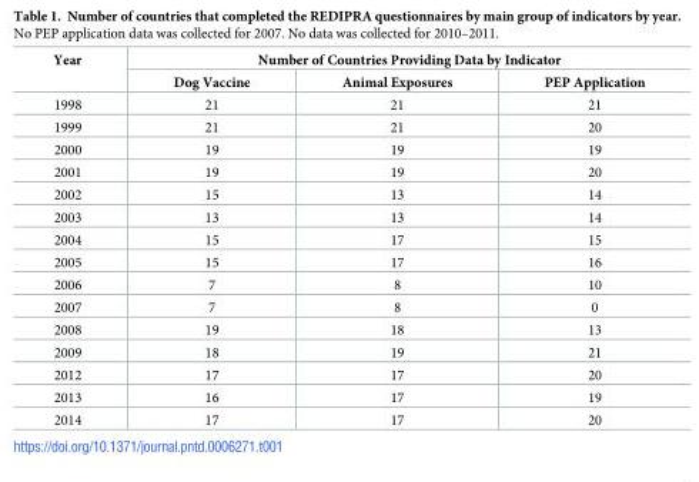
<table><thead><tr><td rowspan="2">Year</td><td colspan="3">Number of Countries Providing Data by Indicator</td></tr><tr><td>Dog Vaccine</td><td>Animal Exposures</td><td>PEP Application</td></tr></thead><tbody><tr><td>1998</td><td>21</td><td>21</td><td>21</td></tr><tr><td>1999</td><td>21</td><td>21</td><td>20</td></tr><tr><td>2000</td><td>19</td><td>19</td><td>19</td></tr><tr><td>2001</td><td>19</td><td>19</td><td>20</td></tr><tr><td>2002</td><td>15</td><td>13</td><td>14</td></tr><tr><td>2003</td><td>13</td><td>13</td><td>14</td></tr><tr><td>2004</td><td>15</td><td>17</td><td>15</td></tr><tr><td>2005</td><td>15</td><td>17</td><td>16</td></tr><tr><td>2006</td><td>7</td><td>8</td><td>10</td></tr><tr><td>2007</td><td>7</td><td>8</td><td>0</td></tr><tr><td>2008</td><td>19</td><td>18</td><td>13</td></tr><tr><td>2009</td><td>18</td><td>19</td><td>21</td></tr><tr><td>2012</td><td>17</td><td>17</td><td>20</td></tr><tr><td>2013</td><td>16</td><td>17</td><td>19</td></tr><tr><td>2014</td><td>17</td><td>17</td><td>20</td></tr></tbody></table>